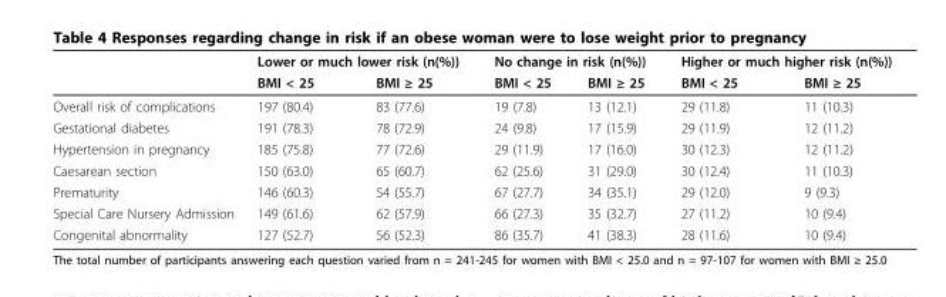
<table><thead><tr><td rowspan="2"></td><td colspan="2">Lower or much lower risk (n(%))</td><td colspan="2">No change in risk (n(%))</td><td colspan="2">Higher or much higher risk (n(%))</td></tr><tr><td>BMI &lt; 25</td><td>BMI ≥ 25</td><td>BMI &lt; 25</td><td>BMI ≥ 25</td><td>BMI &lt; 25</td><td>BMI ≥ 25</td></tr></thead><tbody><tr><td>Overall risk of complications</td><td>197 (80.4)</td><td>83 (77.6)</td><td>19 (7.8)</td><td>13 (12.1)</td><td>29 (11.8)</td><td>11 (10.3)</td></tr><tr><td>Gestational diabetes</td><td>191 (78.3)</td><td>78 (72.9)</td><td>24 (9.8)</td><td>17 (15.9)</td><td>29 (11.9)</td><td>12 (11.2)</td></tr><tr><td>Hypertension in pregnancy</td><td>185 (75.8)</td><td>77 (72.6)</td><td>29 (11.9)</td><td>17 (16.0)</td><td>30 (12.3)</td><td>12 (11.2)</td></tr><tr><td>Caesarean section</td><td>150 (63.0)</td><td>65 (60.7)</td><td>62 (25.6)</td><td>31 (29.0)</td><td>30 (12.4)</td><td>11 (10.3)</td></tr><tr><td>Prematurity</td><td>146 (60.3)</td><td>54 (55.7)</td><td>67 (27.7)</td><td>34 (35.1)</td><td>29 (12.0)</td><td>9 (9.3)</td></tr><tr><td>Special Care Nursery Admission</td><td>149 (61.6)</td><td>62 (57.9)</td><td>66 (27.3)</td><td>35 (32.7)</td><td>27 (11.2)</td><td>10 (9.4)</td></tr><tr><td>Congenital abnormality</td><td>127 (52.7)</td><td>56 (52.3)</td><td>86 (35.7)</td><td>41 (38.3)</td><td>28 (11.6)</td><td>10 (9.4)</td></tr></tbody></table>